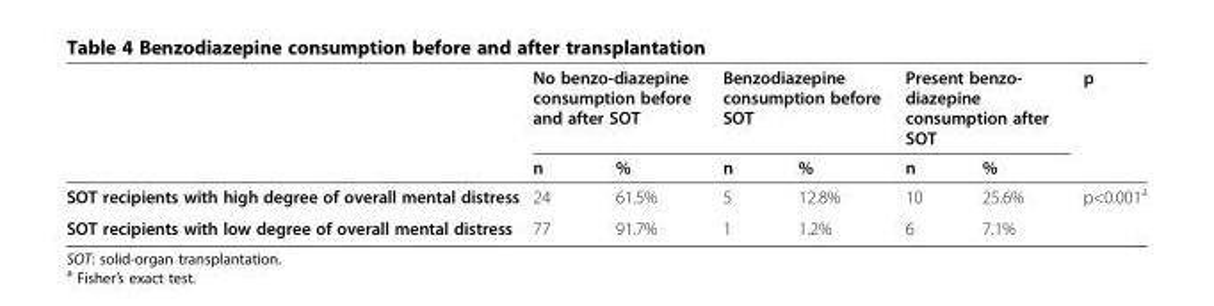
<table><thead><tr><td rowspan="2"></td><td colspan="2">No benzo-diazepine consumption before and after SOT</td><td colspan="2">Benzodiazepine consumption before SOT</td><td colspan="2">Present benzo- diazepine consumption after SOT</td><td rowspan="2">p</td></tr><tr><td>n</td><td>%</td><td>n</td><td>%</td><td>n</td><td>%</td></tr></thead><tbody><tr><td>SOT recipients with high degree of overall mental distress</td><td>24</td><td>61.5%</td><td>5</td><td>12.8%</td><td>10</td><td>25.6%</td><td>p&lt;0.001<sup>a</sup></td></tr><tr><td>SOT recipients with low degree of overall mental distress</td><td>77</td><td>91.7%</td><td>1</td><td>1.2%</td><td>6</td><td>7.1%</td><td></td></tr></tbody></table>